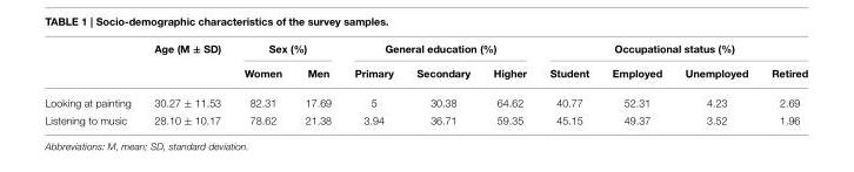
<table><thead><tr><td rowspan="2"></td><td rowspan="2">Age (M ± SD)</td><td colspan="2">Sex (%)</td><td colspan="3">General education (%)</td><td colspan="4">Occupational status (%)</td></tr><tr><td>Women</td><td>Men</td><td>Primary</td><td>Secondary</td><td>Higher</td><td>Student</td><td>Employed</td><td>Unemployed</td><td>Retired</td></tr></thead><tbody><tr><td>Looking at painting</td><td>30.27 ± 11.53</td><td>82.31</td><td>17.69</td><td>5</td><td>30.38</td><td>64.62</td><td>40.77</td><td>52.31</td><td>4.23</td><td>2.69</td></tr><tr><td>Listening to music</td><td>28.10 ± 10.17</td><td>78.62</td><td>21.38</td><td>3.94</td><td>36.71</td><td>59.35</td><td>45.15</td><td>49.37</td><td>3.52</td><td>1.96</td></tr></tbody></table>